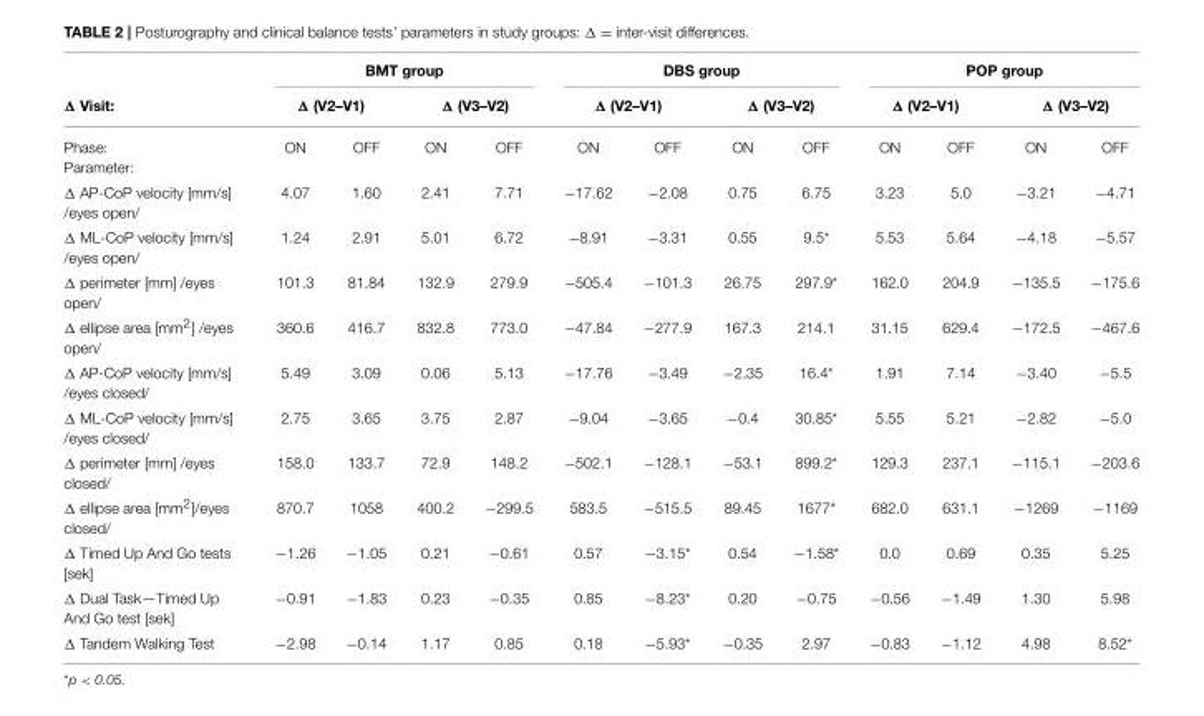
<table><thead><tr><td rowspan="3">Δ Visit: Phase: Parameter:</td><td colspan="4">BMT group</td><td colspan="4">DBS group</td><td colspan="4">POP group</td></tr><tr><td colspan="2">Δ (V2–V1)</td><td colspan="2">Δ (V3–V2)</td><td colspan="2">Δ (V2–V1)</td><td colspan="2">Δ (V3–V2)</td><td colspan="2">Δ (V2–V1)</td><td colspan="2">Δ (V3–V2)</td></tr><tr><td>ON</td><td>OFF</td><td>ON</td><td>OFF</td><td>ON</td><td>OFF</td><td>ON</td><td>OFF</td><td>ON</td><td>OFF</td><td>ON</td><td>OFF</td></tr></thead><tbody><tr><td>Δ AP-CoP velocity [mm/s] /eyes open/</td><td>4.07</td><td>1.60</td><td>2.41</td><td>7.71</td><td>−17.62</td><td>−2.08</td><td>0.75</td><td>6.75</td><td>3.23</td><td>5.0</td><td>−3.21</td><td>−4.71</td></tr><tr><td>Δ ML-CoP velocity [mm/s] /eyes open/</td><td>1.24</td><td>2.91</td><td>5.01</td><td>6.72</td><td>−8.91</td><td>−3.31</td><td>0.55</td><td>9.5*</td><td>5.53</td><td>5.64</td><td>−4.18</td><td>−5.57</td></tr><tr><td>Δ perimeter [mm] /eyes open/</td><td>101.3</td><td>81.84</td><td>132.9</td><td>279.9</td><td>−505.4</td><td>−101.3</td><td>26.75</td><td>297.9*</td><td>162.0</td><td>204.9</td><td>−135.5</td><td>−175.6</td></tr><tr><td>Δ ellipse area [mm<sup>2</sup>] /eyes open/</td><td>360.6</td><td>416.7</td><td>832.8</td><td>773.0</td><td>−47.84</td><td>−277.9</td><td>167.3</td><td>214.1</td><td>31.15</td><td>629.4</td><td>−172.5</td><td>−467.6</td></tr><tr><td>Δ AP-CoP velocity [mm/s] /eyes closed/</td><td>5.49</td><td>3.09</td><td>0.06</td><td>5.13</td><td>−17.76</td><td>−3.49</td><td>−2.35</td><td>16.4*</td><td>1.91</td><td>7.14</td><td>−3.40</td><td>−5.5</td></tr><tr><td>Δ ML-CoP velocity [mm/s] /eyes closed/</td><td>2.75</td><td>3.65</td><td>3.75</td><td>2.87</td><td>−9.04</td><td>−3.65</td><td>−0.4</td><td>30.85*</td><td>5.55</td><td>5.21</td><td>−2.82</td><td>−5.0</td></tr><tr><td>Δ perimeter [mm] /eyes closed/</td><td>158.0</td><td>133.7</td><td>72.9</td><td>148.2</td><td>−502.1</td><td>−128.1</td><td>−53.1</td><td>899.2*</td><td>129.3</td><td>237.1</td><td>−115.1</td><td>−203.6</td></tr><tr><td>Δ ellipse area [mm<sup>2</sup>]/eyes closed/</td><td>870.7</td><td>1058</td><td>400.2</td><td>−299.5</td><td>583.5</td><td>−515.5</td><td>89.45</td><td>1677*</td><td>682.0</td><td>631.1</td><td>−1269</td><td>−1169</td></tr><tr><td>Δ Timed Up And Go tests [sek]</td><td>−1.26</td><td>−1.05</td><td>0.21</td><td>−0.61</td><td>0.57</td><td>−3.15*</td><td>0.54</td><td>−1.58*</td><td>0.0</td><td>0.69</td><td>0.35</td><td>5.25</td></tr><tr><td>Δ Dual Task—Timed Up And Go test [sek]</td><td>−0.91</td><td>−1.83</td><td>0.23</td><td>−0.35</td><td>0.85</td><td>−8.23*</td><td>0.20</td><td>−0.75</td><td>−0.56</td><td>−1.49</td><td>1.30</td><td>5.98</td></tr><tr><td>Δ Tandem Walking Test</td><td>−2.98</td><td>−0.14</td><td>1.17</td><td>0.85</td><td>0.18</td><td>−5.93*</td><td>−0.35</td><td>2.97</td><td>−0.83</td><td>−1.12</td><td>4.98</td><td>8.52*</td></tr></tbody></table>